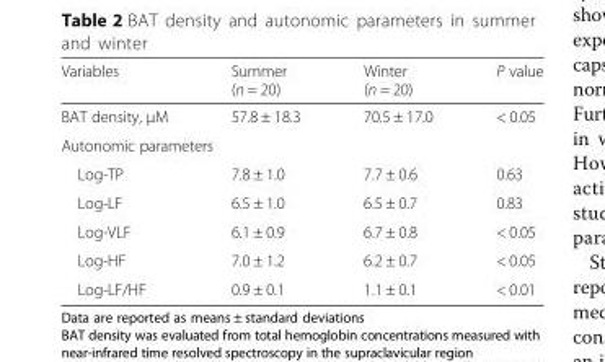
<table><thead><tr><td>Variables</td><td>Summer (n = 20)</td><td>Winter (n = 20)</td><td>P value</td></tr></thead><tbody><tr><td>BAT density, μM</td><td>57.8 ± 18.3</td><td>70.5 ± 17.0</td><td>&lt; 0.05</td></tr><tr><td colspan="4">Autonomic parameters</td></tr><tr><td>Log-TP</td><td>7.8 ± 1.0</td><td>7.7 ± 0.6</td><td>0.63</td></tr><tr><td>Log-LF</td><td>6.5 ± 1.0</td><td>6.5 ± 0.7</td><td>0.83</td></tr><tr><td>Log-VLF</td><td>6.1 ± 0.9</td><td>6.7 ± 0.8</td><td>&lt; 0.05</td></tr><tr><td>Log-HF</td><td>7.0 ± 1.2</td><td>6.2 ± 0.7</td><td>&lt; 0.05</td></tr><tr><td>Log-LF/HF</td><td>0.9 ± 0.1</td><td>1.1 ± 0.1</td><td>&lt; 0.01</td></tr></tbody></table>